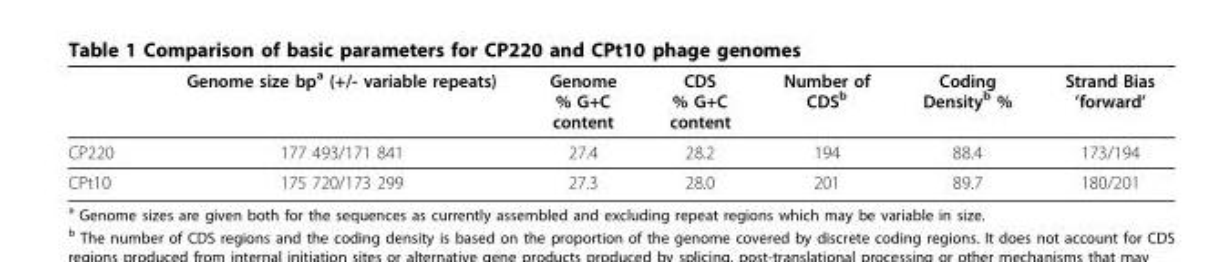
<table><thead><tr><td></td><td>Genome size bp<sup>a</sup> (+/- variable repeats)</td><td>Genome % G+C content</td><td>CDS % G+C content</td><td>Number of CDS<sup>b</sup></td><td>Coding Density<sup>b</sup> %</td><td>Strand Bias ’forward’</td></tr></thead><tbody><tr><td>CP220</td><td>177 493/171 841</td><td>27.4</td><td>28.2</td><td>194</td><td>88.4</td><td>173/194</td></tr><tr><td>CPt10</td><td>175 720/173 299</td><td>27.3</td><td>28.0</td><td>201</td><td>89.7</td><td>180/201</td></tr></tbody></table>